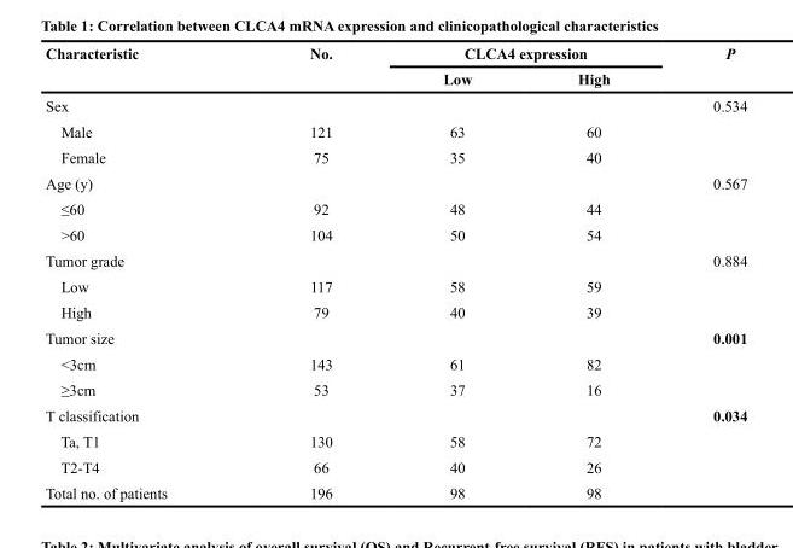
<table><thead><tr><td rowspan="2">Characteristic</td><td rowspan="2">No.</td><td colspan="2">CLCA4 expression</td><td rowspan="2">P</td></tr><tr><td>Low</td><td>High</td></tr></thead><tbody><tr><td>Sex</td><td></td><td></td><td></td><td>0.534</td></tr><tr><td>Male</td><td>121</td><td>63</td><td>60</td><td></td></tr><tr><td>Female</td><td>75</td><td>35</td><td>40</td><td></td></tr><tr><td>Age (y)</td><td></td><td></td><td></td><td>0.567</td></tr><tr><td>≤60</td><td>92</td><td>48</td><td>44</td><td></td></tr><tr><td>&gt;60</td><td>104</td><td>50</td><td>54</td><td></td></tr><tr><td>Tumor grade</td><td></td><td></td><td></td><td>0.884</td></tr><tr><td>Low</td><td>117</td><td>58</td><td>59</td><td></td></tr><tr><td>High</td><td>79</td><td>40</td><td>39</td><td></td></tr><tr><td>Tumor size</td><td></td><td></td><td></td><td>0.001</td></tr><tr><td>&lt;3cm</td><td>143</td><td>61</td><td>82</td><td></td></tr><tr><td>≥3cm</td><td>53</td><td>37</td><td>16</td><td></td></tr><tr><td>T classification</td><td></td><td></td><td></td><td>0.034</td></tr><tr><td>Ta, T1</td><td>130</td><td>58</td><td>72</td><td></td></tr><tr><td>T2-T4</td><td>66</td><td>40</td><td>26</td><td></td></tr><tr><td>Total no. of patients</td><td>196</td><td>98</td><td>98</td><td></td></tr></tbody></table>